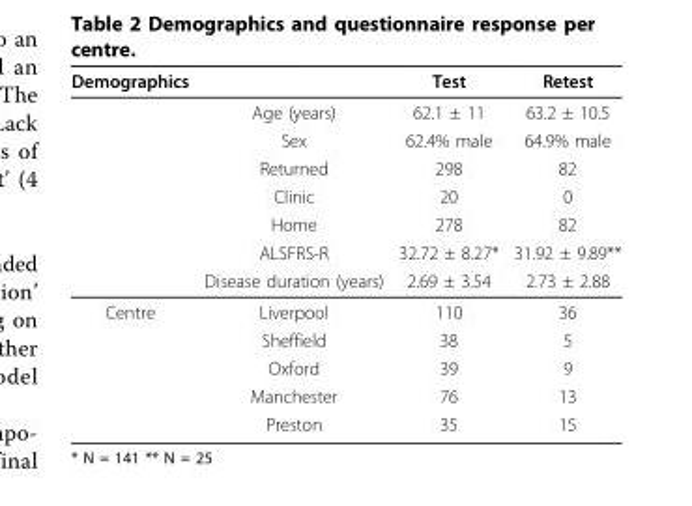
<table><thead><tr><td>Demographics</td><td></td><td>Test</td><td>Retest</td></tr></thead><tbody><tr><td></td><td>Age (years)</td><td>62.1 ± 11</td><td>63.2 ± 10.5</td></tr><tr><td></td><td>Sex</td><td>62.4% male</td><td>64.9% male</td></tr><tr><td></td><td>Returned</td><td>298</td><td>82</td></tr><tr><td></td><td>Clinic</td><td>20</td><td>0</td></tr><tr><td></td><td>Home</td><td>278</td><td>82</td></tr><tr><td></td><td>ALSFRS-R</td><td>32.72 ± 8.27*</td><td>31.92 ± 9.89**</td></tr><tr><td></td><td>Disease duration (years)</td><td>2.69 ± 3.54</td><td>2.73 ± 2.88</td></tr><tr><td rowspan="5">Centre</td><td>Liverpool</td><td>110</td><td>36</td></tr><tr><td>Sheffield</td><td>38</td><td>5</td></tr><tr><td>Oxford</td><td>39</td><td>9</td></tr><tr><td>Manchester</td><td>76</td><td>13</td></tr><tr><td>Preston</td><td>35</td><td>15</td></tr></tbody></table>